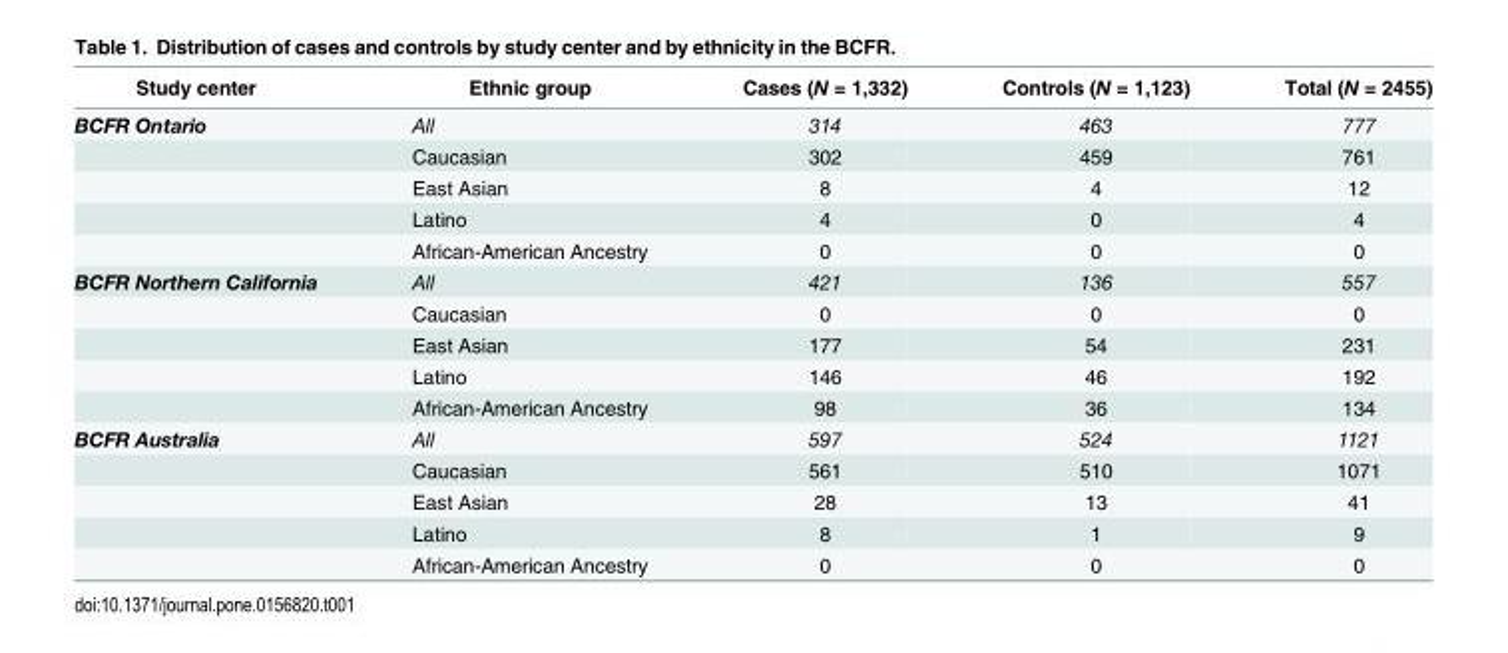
<table><thead><tr><td>Study center</td><td>Ethnic group</td><td>Cases (N = 1,332)</td><td>Controls (N = 1,123)</td><td>Total (N = 2455)</td></tr></thead><tbody><tr><td rowspan="5">BCFR Ontario</td><td>All</td><td>314</td><td>463</td><td>777</td></tr><tr><td>Caucasian</td><td>302</td><td>459</td><td>761</td></tr><tr><td>East Asian</td><td>8</td><td>4</td><td>12</td></tr><tr><td>Latino</td><td>4</td><td>0</td><td>4</td></tr><tr><td>African-American Ancestry</td><td>0</td><td>0</td><td>0</td></tr><tr><td rowspan="5">BCFR Northern California</td><td>All</td><td>421</td><td>136</td><td>557</td></tr><tr><td>Caucasian</td><td>0</td><td>0</td><td>0</td></tr><tr><td>East Asian</td><td>177</td><td>54</td><td>231</td></tr><tr><td>Latino</td><td>146</td><td>46</td><td>192</td></tr><tr><td>African-American Ancestry</td><td>98</td><td>36</td><td>134</td></tr><tr><td rowspan="5">BCFR Australia</td><td>All</td><td>597</td><td>524</td><td>1121</td></tr><tr><td>Caucasian</td><td>561</td><td>510</td><td>1071</td></tr><tr><td>East Asian</td><td>28</td><td>13</td><td>41</td></tr><tr><td>Latino</td><td>8</td><td>1</td><td>9</td></tr><tr><td>African-American Ancestry</td><td>0</td><td>0</td><td>0</td></tr></tbody></table>